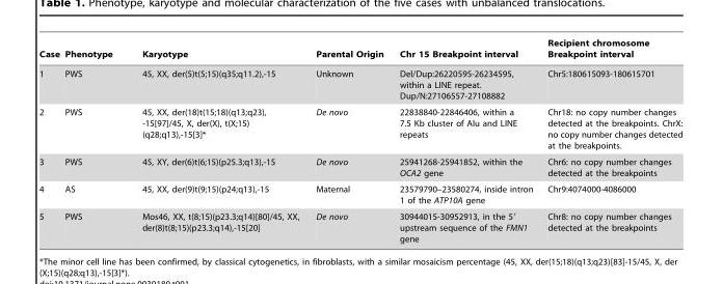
<table><thead><tr><td>Case</td><td>Phenotype</td><td>Karyotype</td><td>Parental Origin</td><td>Chr 15 Breakpoint interval</td><td>Recipient chromosome Breakpoint interval</td></tr></thead><tbody><tr><td>1</td><td>PWS</td><td>45, XX, der(5)t(5;15)(q35;q11.2),-15</td><td>Unknown</td><td>Del/Dup:26220595-26234595, within a LINE repeat. Dup/N:27106557-27108882</td><td>Chr5:180615093-180615701</td></tr><tr><td>2</td><td>PWS</td><td>45, XX, der(18)t(15;18)(q13;q23), -15[97]/45, X, der(X), t(X;15) (q28;q13),-15[3]*</td><td>De novo</td><td>22838840-22846406, within a 7.5 Kb cluster of Alu and LINE repeats</td><td>Chr18: no copy number changes detected at the breakpoints. ChrX: no copy number changes detected at the breakpoints.</td></tr><tr><td>3</td><td>PWS</td><td>45, XY, der(6)t(6;15)(p25.3;q13),-15</td><td>De novo</td><td>25941268-25941852, within the OCA2 gene</td><td>Chr6: no copy number changes detected at the breakpoints</td></tr><tr><td>4</td><td>AS</td><td>45, XX, der(9)t(9;15)(p24;q13),-15</td><td>Maternal</td><td>23579790–23580274, inside intron 1 of the ATP10A gene</td><td>Chr9:4074000-4086000</td></tr><tr><td>5</td><td>PWS</td><td>Mos46, XX, t(8;15)(p23.3;q14)[80]/45, XX, der(8)t(8;15)(p23.3;q14),-15[20]</td><td>De novo</td><td>30944015-30952913, in the 5′ upstream sequence of the FMN1 gene</td><td>Chr8: no copy number changes detected at the breakpoints</td></tr></tbody></table>